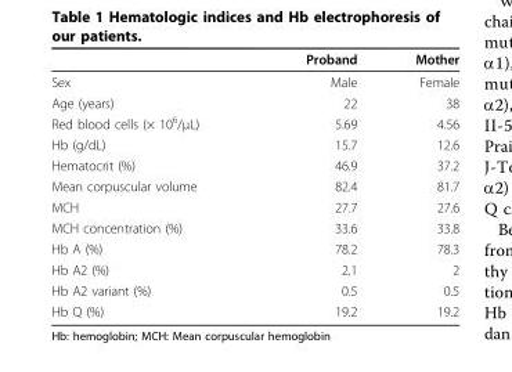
<table><thead><tr><td></td><td>Proband</td><td>Mother</td></tr></thead><tbody><tr><td>Sex</td><td>Male</td><td>Female</td></tr><tr><td>Age (years)</td><td>22</td><td>38</td></tr><tr><td>Red blood cells (× 10<sup>6</sup>/μL)</td><td>5.69</td><td>4.56</td></tr><tr><td>Hb (g/dL)</td><td>15.7</td><td>12.6</td></tr><tr><td>Hematocrit (%)</td><td>46.9</td><td>37.2</td></tr><tr><td>Mean corpuscular volume</td><td>82.4</td><td>81.7</td></tr><tr><td>MCH</td><td>27.7</td><td>27.6</td></tr><tr><td>MCH concentration (%)</td><td>33.6</td><td>33.8</td></tr><tr><td>Hb A (%)</td><td>78.2</td><td>78.3</td></tr><tr><td>Hb A2 (%)</td><td>2.1</td><td>2</td></tr><tr><td>Hb A2 variant (%)</td><td>0.5</td><td>0.5</td></tr><tr><td>Hb Q (%)</td><td>19.2</td><td>19.2</td></tr></tbody></table>